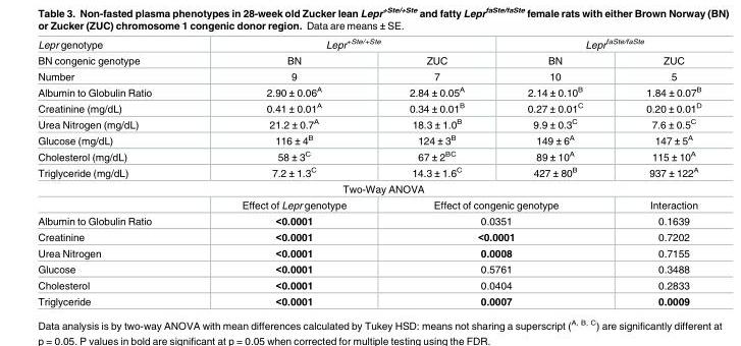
<table><tbody><tr><td>Lepr genotype</td><td colspan="2">Lepr<sup>+Ste/+Ste</sup></td><td colspan="2">Lepr<sup>faSte/faSte</sup></td></tr><tr><td>BN congenic genotype</td><td>BN</td><td>ZUC</td><td>BN</td><td>ZUC</td></tr><tr><td>Number</td><td>9</td><td>7</td><td>10</td><td>5</td></tr><tr><td>Albumin to Globulin Ratio</td><td>2.90 ± 0.06<sup>A</sup></td><td>2.84 ± 0.05<sup>A</sup></td><td>2.14 ± 0.10<sup>B</sup></td><td>1.84 ± 0.07<sup>B</sup></td></tr><tr><td>Creatinine (mg/dL)</td><td>0.41 ± 0.01<sup>A</sup></td><td>0.34 ± 0.01<sup>B</sup></td><td>0.27 ± 0.01<sup>C</sup></td><td>0.20 ± 0.01<sup>D</sup></td></tr><tr><td>Urea Nitrogen (mg/dL)</td><td>21.2 ± 0.7<sup>A</sup></td><td>18.3 ± 1.0<sup>B</sup></td><td>9.9 ± 0.3<sup>C</sup></td><td>7.6 ± 0.5<sup>C</sup></td></tr><tr><td>Glucose (mg/dL)</td><td>116 ± 4<sup>B</sup></td><td>124 ± 3<sup>B</sup></td><td>149 ± 6<sup>A</sup></td><td>147 ± 5<sup>A</sup></td></tr><tr><td>Cholesterol (mg/dL)</td><td>58 ± 3<sup>C</sup></td><td>67 ± 2<sup>BC</sup></td><td>89 ± 10<sup>A</sup></td><td>115 ± 10<sup>A</sup></td></tr><tr><td>Triglyceride (mg/dL)</td><td>7.2 ± 1.3<sup>C</sup></td><td>14.3 ± 1.6<sup>C</sup></td><td>427 ± 80<sup>B</sup></td><td>937 ± 122<sup>A</sup></td></tr><tr><td colspan="5">Two-Way ANOVA</td></tr><tr><td></td><td>Effect of Lepr genotype</td><td colspan="2">Effect of congenic genotype</td><td>Interaction</td></tr><tr><td>Albumin to Globulin Ratio</td><td>&lt;0.0001</td><td colspan="2">0.0351</td><td>0.1639</td></tr><tr><td>Creatinine</td><td>&lt;0.0001</td><td colspan="2">&lt;0.0001</td><td>0.7202</td></tr><tr><td>Urea Nitrogen</td><td>&lt;0.0001</td><td colspan="2">0.0008</td><td>0.7155</td></tr><tr><td>Glucose</td><td>&lt;0.0001</td><td colspan="2">0.5761</td><td>0.3488</td></tr><tr><td>Cholesterol</td><td>&lt;0.0001</td><td colspan="2">0.0404</td><td>0.2833</td></tr><tr><td>Triglyceride</td><td>&lt;0.0001</td><td colspan="2">0.0007</td><td>0.0009</td></tr></tbody></table>